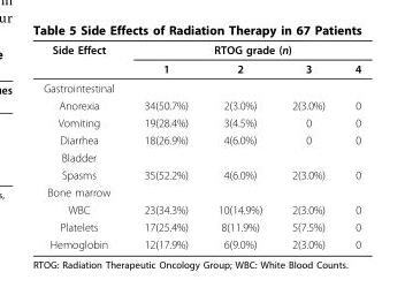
<table><thead><tr><td rowspan="2">Side Effect</td><td colspan="4">RTOG grade (n)</td></tr><tr><td>1</td><td>2</td><td>3</td><td>4</td></tr></thead><tbody><tr><td colspan="5">Gastrointestinal</td></tr><tr><td>Anorexia</td><td>34(50.7%)</td><td>2(3.0%)</td><td>2(3.0%)</td><td>0</td></tr><tr><td>Vomiting</td><td>19(28.4%)</td><td>3(4.5%)</td><td>0</td><td>0</td></tr><tr><td>Diarrhea</td><td>18(26.9%)</td><td>4(6.0%)</td><td>0</td><td>0</td></tr><tr><td colspan="5">Bladder</td></tr><tr><td>Spasms</td><td>35(52.2%)</td><td>4(6.0%)</td><td>2(3.0%)</td><td>0</td></tr><tr><td colspan="5">Bone marrow</td></tr><tr><td>WBC</td><td>23(34.3%)</td><td>10(14.9%)</td><td>2(3.0%)</td><td>0</td></tr><tr><td>Platelets</td><td>17(25.4%)</td><td>8(11.9%)</td><td>5(7.5%)</td><td>0</td></tr><tr><td>Hemoglobin</td><td>12(17.9%)</td><td>6(9.0%)</td><td>2(3.0%)</td><td>0</td></tr></tbody></table>